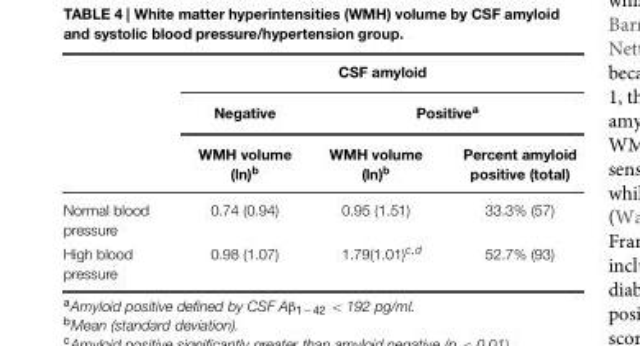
<table><thead><tr><td rowspan="3"></td><td colspan="3">CSF amyloid</td></tr><tr><td rowspan="2">Negative WMH volume (ln)<sup>b</sup></td><td colspan="2">Positive<sup>a</sup></td></tr><tr><td>WMH volume (ln)<sup>b</sup></td><td>Percent amyloid positive (total)</td></tr></thead><tbody><tr><td>Normal blood pressure</td><td>0.74 (0.94)</td><td>0.95 (1.51)</td><td>33.3% (57)</td></tr><tr><td>High blood pressure</td><td>0.98 (1.07)</td><td>1.79(1.01)<sup>c,d</sup></td><td>52.7% (93)</td></tr></tbody></table>